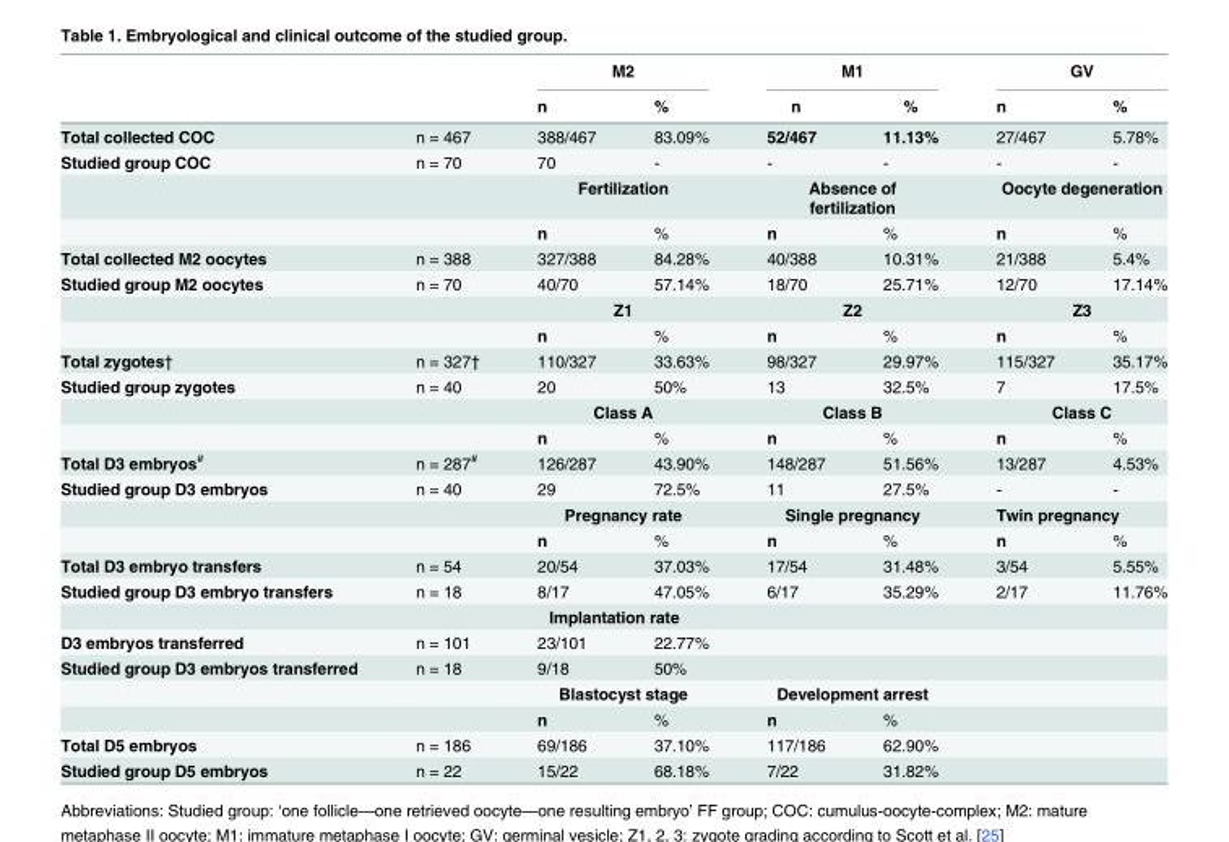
<table><thead><tr><td rowspan="2"></td><td rowspan="2"></td><td colspan="2">M2</td><td colspan="2">M1</td><td colspan="2">GV</td></tr><tr><td>n</td><td>%</td><td>n</td><td>%</td><td>n</td><td>%</td></tr></thead><tbody><tr><td>Total collected COC</td><td>n = 467</td><td>388/467</td><td>83.09%</td><td>52/467</td><td>11.13%</td><td>27/467</td><td>5.78%</td></tr><tr><td rowspan="3">Studied group COC</td><td>n = 70</td><td>70</td><td>-</td><td>-</td><td>-</td><td>-</td><td>-</td></tr><tr><td></td><td colspan="2">Fertilization</td><td colspan="2">Absence of fertilization</td><td colspan="2">Oocyte degeneration</td></tr><tr><td></td><td>n</td><td>%</td><td>n</td><td>%</td><td>n</td><td>%</td></tr><tr><td>Total collected M2 oocytes</td><td>n = 388</td><td>327/388</td><td>84.28%</td><td>40/388</td><td>10.31%</td><td>21/388</td><td>5.4%</td></tr><tr><td rowspan="3">Studied group M2 oocytes</td><td>n = 70</td><td>40/70</td><td>57.14%</td><td>18/70</td><td>25.71%</td><td>12/70</td><td>17.14%</td></tr><tr><td></td><td colspan="2">Z1</td><td colspan="2">Z2</td><td colspan="2">Z3</td></tr><tr><td></td><td>n</td><td>%</td><td>n</td><td>%</td><td>n</td><td>%</td></tr><tr><td>Total zygotes†</td><td>n = 327†</td><td>110/327</td><td>33.63%</td><td>98/327</td><td>29.97%</td><td>115/327</td><td>35.17%</td></tr><tr><td rowspan="3">Studied group zygotes</td><td>n = 40</td><td>20</td><td>50%</td><td>13</td><td>32.5%</td><td>7</td><td>17.5%</td></tr><tr><td></td><td colspan="2">Class A</td><td colspan="2">Class B</td><td colspan="2">Class C</td></tr><tr><td></td><td>n</td><td>%</td><td>n</td><td>%</td><td>n</td><td>%</td></tr><tr><td>Total D3 embryos<sup>#</sup></td><td>n = 287<sup>#</sup></td><td>126/287</td><td>43.90%</td><td>148/287</td><td>51.56%</td><td>13/287</td><td>4.53%</td></tr><tr><td rowspan="3">Studied group D3 embryos</td><td>n = 40</td><td>29</td><td>72.5%</td><td>11</td><td>27.5%</td><td>-</td><td>-</td></tr><tr><td></td><td colspan="2">Pregnancy rate</td><td colspan="2">Single pregnancy</td><td colspan="2">Twin pregnancy</td></tr><tr><td></td><td>n</td><td>%</td><td>n</td><td>%</td><td>n</td><td>%</td></tr><tr><td>Total D3 embryo transfers</td><td>n = 54</td><td>20/54</td><td>37.03%</td><td>17/54</td><td>31.48%</td><td>3/54</td><td>5.55%</td></tr><tr><td>Studied group D3 embryo transfers</td><td>n = 18</td><td>8/17</td><td>47.05%</td><td>6/17</td><td>35.29%</td><td>2/17</td><td>11.76%</td></tr><tr><td colspan="8">Implantation rate</td></tr><tr><td>D3 embryos transferred</td><td>n = 101</td><td>23/101</td><td>22.77%</td><td></td><td></td><td></td><td></td></tr><tr><td rowspan="3">Studied group D3 embryos transferred</td><td>n = 18</td><td>9/18</td><td>50%</td><td></td><td></td><td></td><td></td></tr><tr><td></td><td colspan="2">Blastocyst stage</td><td colspan="2">Development arrest</td><td></td><td></td></tr><tr><td></td><td>n</td><td>%</td><td>n</td><td>%</td><td></td><td></td></tr><tr><td>Total D5 embryos</td><td>n = 186</td><td>69/186</td><td>37.10%</td><td>117/186</td><td>62.90%</td><td></td><td></td></tr><tr><td>Studied group D5 embryos</td><td>n = 22</td><td>15/22</td><td>68.18%</td><td>7/22</td><td>31.82%</td><td></td><td></td></tr></tbody></table>